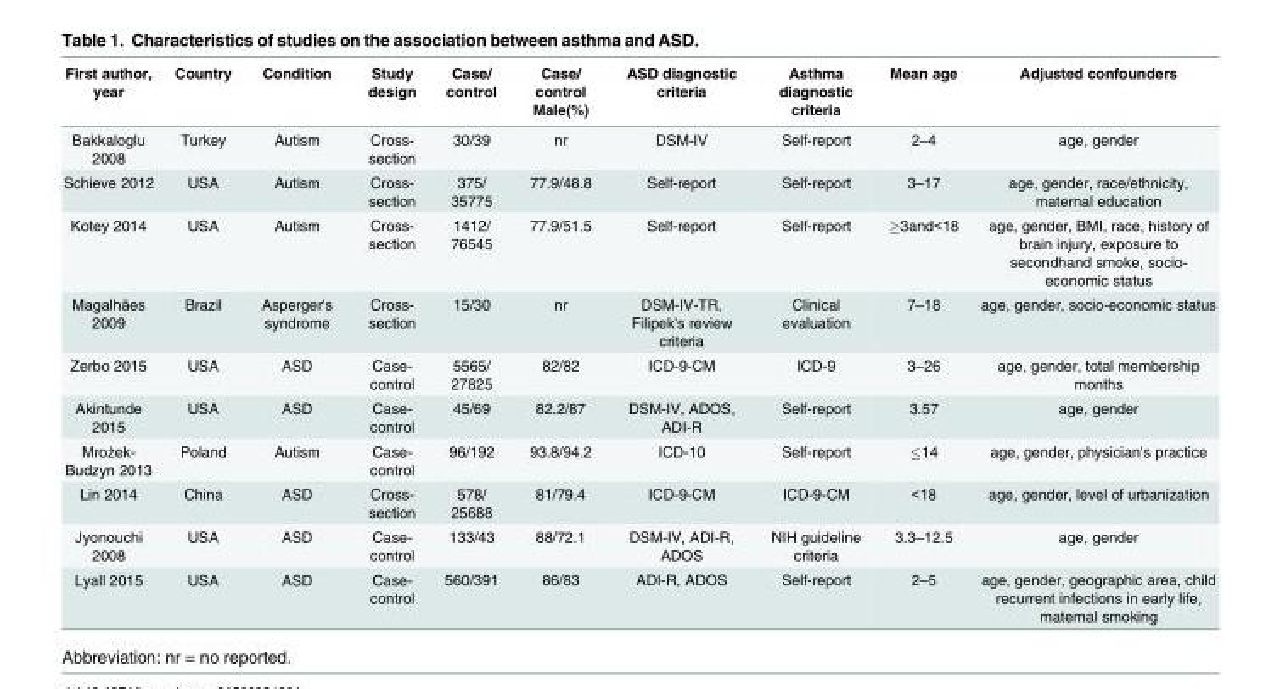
<table><thead><tr><td>First author, year</td><td>Country</td><td>Condition</td><td>Study design</td><td>Case/ control</td><td>Case/ control Male(%)</td><td>ASD diagnostic criteria</td><td>Asthma diagnostic criteria</td><td>Mean age</td><td>Adjusted confounders</td></tr></thead><tbody><tr><td>Bakkaloglu 2008</td><td>Turkey</td><td>Autism</td><td>Cross- section</td><td>30/39</td><td>nr</td><td>DSM-IV</td><td>Self-report</td><td>2–4</td><td>age, gender</td></tr><tr><td>Schieve 2012</td><td>USA</td><td>Autism</td><td>Cross- section</td><td>375/ 35775</td><td>77.9/48.8</td><td>Self-report</td><td>Self-report</td><td>3–17</td><td>age, gender, race/ethnicity, maternal education</td></tr><tr><td>Kotey 2014</td><td>USA</td><td>Autism</td><td>Cross- section</td><td>1412/ 76545</td><td>77.9/51.5</td><td>Self-report</td><td>Self-report</td><td>≥3and&lt;18</td><td>age, gender, BMI, race, history of brain injury, exposure to secondhand smoke, socio- economic status</td></tr><tr><td>Magalhães 2009</td><td>Brazil</td><td>Asperger&#x27;s syndrome</td><td>Cross- section</td><td>15/30</td><td>nr</td><td>DSM-IV-TR, Filipek&#x27;s review criteria</td><td>Clinical evaluation</td><td>7–18</td><td>age, gender, socio-economic status</td></tr><tr><td>Zerbo 2015</td><td>USA</td><td>ASD</td><td>Case- control</td><td>5565/ 27825</td><td>82/82</td><td>ICD-9-CM</td><td>ICD-9</td><td>3–26</td><td>age, gender, total membership months</td></tr><tr><td>Akintunde 2015</td><td>USA</td><td>ASD</td><td>Case- control</td><td>45/69</td><td>82.2/87</td><td>DSM-IV, ADOS, ADI-R</td><td>Self-report</td><td>3.57</td><td>age, gender</td></tr><tr><td>Mrożek- Budzyn 2013</td><td>Poland</td><td>Autism</td><td>Case- control</td><td>96/192</td><td>93.8/94.2</td><td>ICD-10</td><td>Self-report</td><td>≤14</td><td>age, gender, physician&#x27;s practice</td></tr><tr><td>Lin 2014</td><td>China</td><td>ASD</td><td>Cross- section</td><td>578/ 25688</td><td>81/79.4</td><td>ICD-9-CM</td><td>ICD-9-CM</td><td>&lt;18</td><td>age, gender, level of urbanization</td></tr><tr><td>Jyonouchi 2008</td><td>USA</td><td>ASD</td><td>Case- control</td><td>133/43</td><td>88/72.1</td><td>DSM-IV, ADI-R, ADOS</td><td>NIH guideline criteria</td><td>3.3–12.5</td><td>age, gender</td></tr><tr><td>Lyall 2015</td><td>USA</td><td>ASD</td><td>Case- control</td><td>560/391</td><td>86/83</td><td>ADI-R, ADOS</td><td>Self-report</td><td>2–5</td><td>age, gender, geographic area, child recurrent infections in early life, maternal smoking</td></tr></tbody></table>